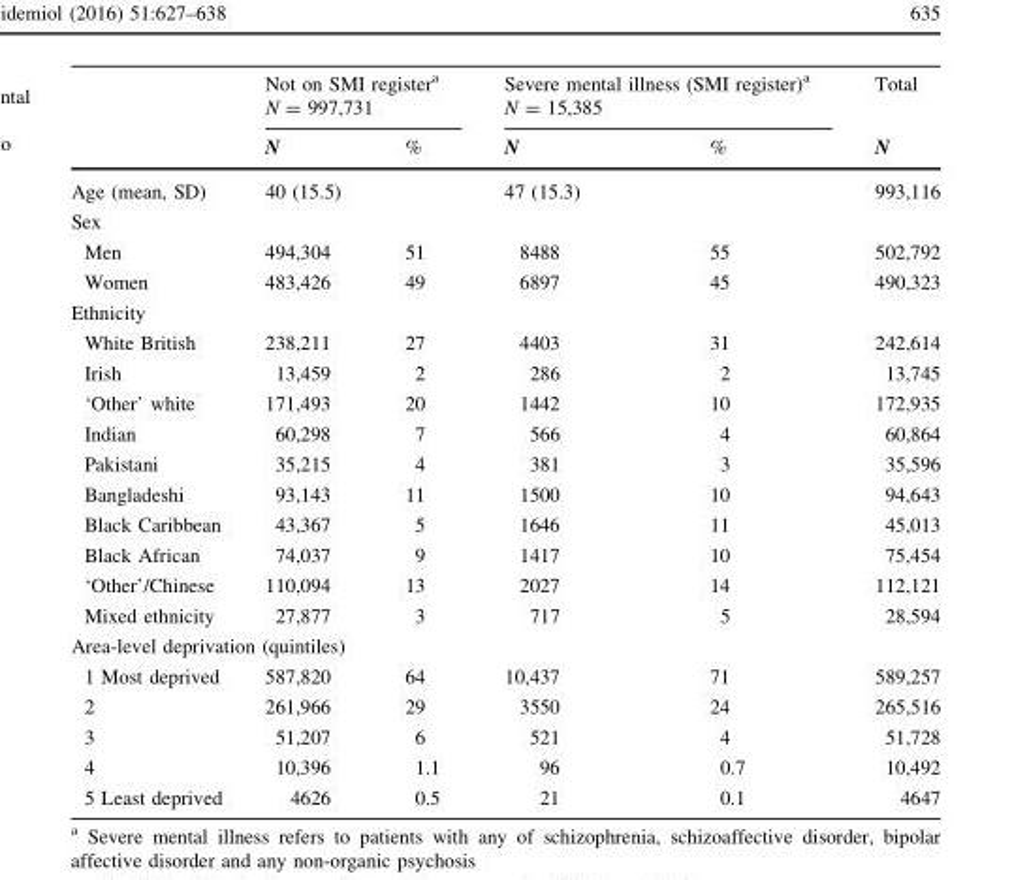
<table><thead><tr><td rowspan="2"></td><td colspan="2">Not on SMI register<sup>a</sup> N = 997,731</td><td colspan="2">Severe mental illness (SMI register)<sup>a</sup> N = 15,385</td><td rowspan="2">Total N</td></tr><tr><td>N</td><td>%</td><td>N</td><td>%</td></tr></thead><tbody><tr><td>Age (mean, SD)</td><td>40 (15.5)</td><td></td><td>47 (15.3)</td><td></td><td>993,116</td></tr><tr><td colspan="6">Sex</td></tr><tr><td>Men</td><td>494,304</td><td>51</td><td>8488</td><td>55</td><td>502,792</td></tr><tr><td>Women</td><td>483,426</td><td>49</td><td>6897</td><td>45</td><td>490,323</td></tr><tr><td colspan="6">Ethnicity</td></tr><tr><td>White British</td><td>238,211</td><td>27</td><td>4403</td><td>31</td><td>242,614</td></tr><tr><td>Irish</td><td>13,459</td><td>2</td><td>286</td><td>2</td><td>13,745</td></tr><tr><td>‘Other’ white</td><td>171,493</td><td>20</td><td>1442</td><td>10</td><td>172,935</td></tr><tr><td>Indian</td><td>60,298</td><td>7</td><td>566</td><td>4</td><td>60,864</td></tr><tr><td>Pakistani</td><td>35,215</td><td>4</td><td>381</td><td>3</td><td>35,596</td></tr><tr><td>Bangladeshi</td><td>93,143</td><td>11</td><td>1500</td><td>10</td><td>94,643</td></tr><tr><td>Black Caribbean</td><td>43,367</td><td>5</td><td>1646</td><td>11</td><td>45,013</td></tr><tr><td>Black African</td><td>74,037</td><td>9</td><td>1417</td><td>10</td><td>75,454</td></tr><tr><td>‘Other’/Chinese</td><td>110,094</td><td>13</td><td>2027</td><td>14</td><td>112,121</td></tr><tr><td>Mixed ethnicity</td><td>27,877</td><td>3</td><td>717</td><td>5</td><td>28,594</td></tr><tr><td colspan="6">Area-level deprivation (quintiles)</td></tr><tr><td>1 Most deprived</td><td>587,820</td><td>64</td><td>10,437</td><td>71</td><td>589,257</td></tr><tr><td>2</td><td>261,966</td><td>29</td><td>3550</td><td>24</td><td>265,516</td></tr><tr><td>3</td><td>51,207</td><td>6</td><td>521</td><td>4</td><td>51,728</td></tr><tr><td>4</td><td>10,396</td><td>1.1</td><td>96</td><td>0.7</td><td>10,492</td></tr><tr><td>5 Least deprived</td><td>4626</td><td>0.5</td><td>21</td><td>0.1</td><td>4647</td></tr></tbody></table>